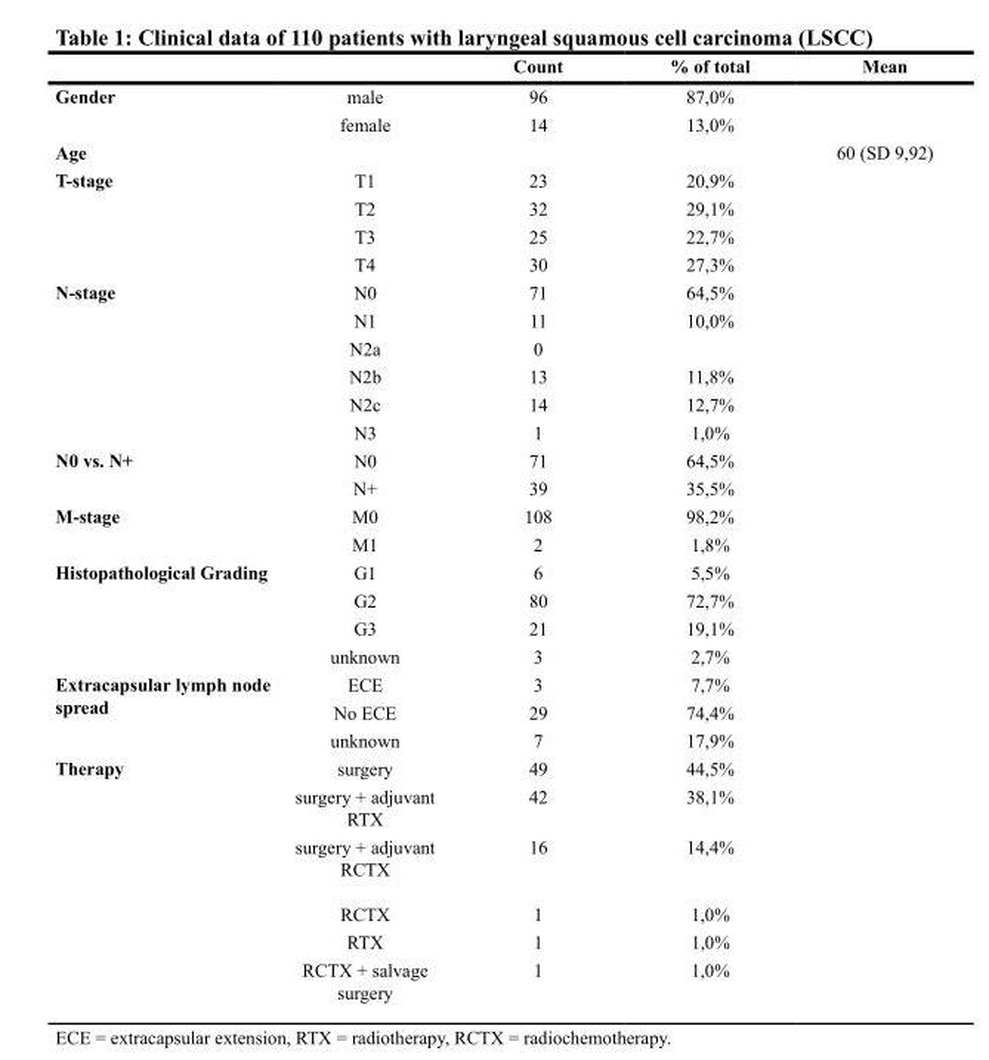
<table><thead><tr><td></td><td></td><td>Count</td><td>% of total</td><td>Mean</td></tr></thead><tbody><tr><td rowspan="2">Gender</td><td>male</td><td>96</td><td>87,0%</td><td></td></tr><tr><td>female</td><td>14</td><td>13,0%</td><td></td></tr><tr><td colspan="2">Age</td><td></td><td></td><td>60 (SD 9,92)</td></tr><tr><td rowspan="4">T-stage</td><td>T1</td><td>23</td><td>20,9%</td><td></td></tr><tr><td>T2</td><td>32</td><td>29,1%</td><td></td></tr><tr><td>T3</td><td>25</td><td>22,7%</td><td></td></tr><tr><td>T4</td><td>30</td><td>27,3%</td><td></td></tr><tr><td rowspan="6">N-stage</td><td>N0</td><td>71</td><td>64,5%</td><td></td></tr><tr><td>N1</td><td>11</td><td>10,0%</td><td></td></tr><tr><td>N2a</td><td>0</td><td></td><td></td></tr><tr><td>N2b</td><td>13</td><td>11,8%</td><td></td></tr><tr><td>N2c</td><td>14</td><td>12,7%</td><td></td></tr><tr><td>N3</td><td>1</td><td>1,0%</td><td></td></tr><tr><td rowspan="2">N0 vs. N+</td><td>N0</td><td>71</td><td>64,5%</td><td></td></tr><tr><td>N+</td><td>39</td><td>35,5%</td><td></td></tr><tr><td rowspan="2">M-stage</td><td>M0</td><td>108</td><td>98,2%</td><td></td></tr><tr><td>M1</td><td>2</td><td>1,8%</td><td></td></tr><tr><td rowspan="4">Histopathological Grading</td><td>G1</td><td>6</td><td>5,5%</td><td></td></tr><tr><td>G2</td><td>80</td><td>72,7%</td><td></td></tr><tr><td>G3</td><td>21</td><td>19,1%</td><td></td></tr><tr><td>unknown</td><td>3</td><td>2,7%</td><td></td></tr><tr><td rowspan="3">Extracapsular lymph node spread</td><td>ECE</td><td>3</td><td>7,7%</td><td></td></tr><tr><td>No ECE</td><td>29</td><td>74,4%</td><td></td></tr><tr><td>unknown</td><td>7</td><td>17,9%</td><td></td></tr><tr><td rowspan="6">Therapy</td><td>surgery</td><td>49</td><td>44,5%</td><td></td></tr><tr><td>surgery + adjuvant RTX</td><td>42</td><td>38,1%</td><td></td></tr><tr><td>surgery + adjuvant RCTX</td><td>16</td><td>14,4%</td><td></td></tr><tr><td>RCTX</td><td>1</td><td>1,0%</td><td></td></tr><tr><td>RTX</td><td>1</td><td>1,0%</td><td></td></tr><tr><td>RCTX + salvage surgery</td><td>1</td><td>1,0%</td><td></td></tr></tbody></table>